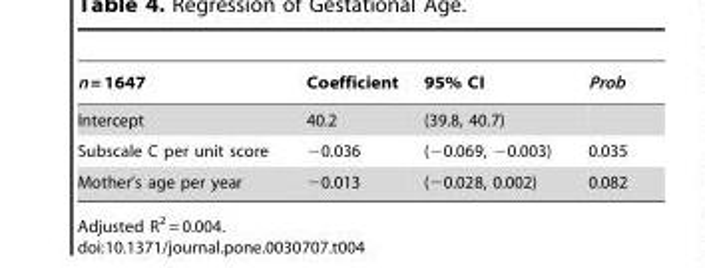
<table><thead><tr><td>n = 1647</td><td>Coefficient</td><td>95% CI</td><td>Prob</td></tr></thead><tbody><tr><td>Intercept</td><td>40.2</td><td>(39.8, 40.7)</td><td></td></tr><tr><td>Subscale C per unit score</td><td>−0.036</td><td>(−0.069, −0.003)</td><td>0.035</td></tr><tr><td>Mother’s age per year</td><td>−0.013</td><td>(−0.028, 0.002)</td><td>0.082</td></tr></tbody></table>